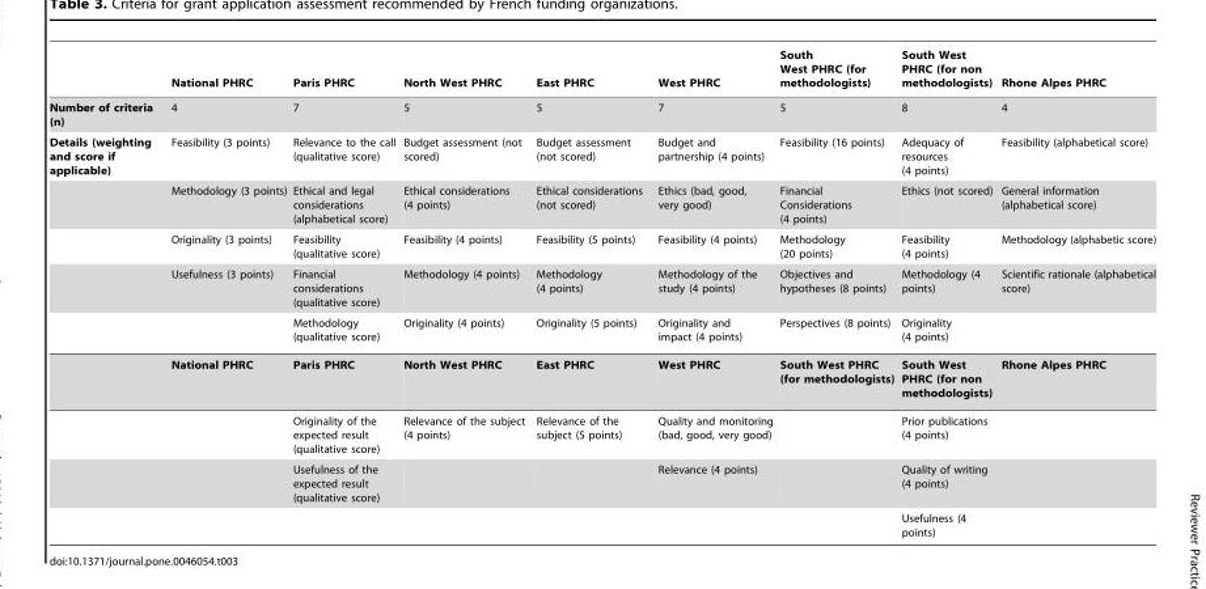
<table><thead><tr><td></td><td>National PHRC</td><td>Paris PHRC</td><td>North West PHRC</td><td>East PHRC</td><td>West PHRC</td><td>South West PHRC (for methodologists)</td><td>South West PHRC (for non methodologists)</td><td>Rhone Alpes PHRC</td></tr></thead><tbody><tr><td>Number of criteria (n)</td><td>4</td><td>7</td><td>5</td><td>5</td><td>7</td><td>5</td><td>8</td><td>4</td></tr><tr><td rowspan="9">Details (weighting and score if applicable)</td><td>Feasibility (3 points)</td><td>Relevance to the call (qualitative score)</td><td>Budget assessment (not scored)</td><td>Budget assessment (not scored)</td><td>Budget and partnership (4 points)</td><td>Feasibility (16 points)</td><td>Adequacy of resources (4 points)</td><td>Feasibility (alphabetical score)</td></tr><tr><td>Methodology (3 points)</td><td>Ethical and legal considerations (alphabetical score)</td><td>Ethical considerations (4 points)</td><td>Ethical considerations (not scored)</td><td>Ethics (bad, good, very good)</td><td>Financial Considerations (4 points)</td><td>Ethics (not scored)</td><td>General information (alphabetical score)</td></tr><tr><td>Originality (3 points)</td><td>Feasibility (qualitative score)</td><td>Feasibility (4 points)</td><td>Feasibility (5 points)</td><td>Feasibility (4 points)</td><td>Methodology (20 points)</td><td>Feasibility (4 points)</td><td>Methodology (alphabetic score)</td></tr><tr><td>Usefulness (3 points)</td><td>Financial considerations (qualitative score)</td><td>Methodology (4 points)</td><td>Methodology (4 points)</td><td>Methodology of the study (4 points)</td><td>Objectives and hypotheses (8 points)</td><td>Methodology (4 points)</td><td>Scientific rationale (alphabetical score)</td></tr><tr><td></td><td>Methodology (qualitative score)</td><td>Originality (4 points)</td><td>Originality (5 points)</td><td>Originality and impact (4 points)</td><td>Perspectives (8 points)</td><td>Originality (4 points)</td><td></td></tr><tr><td>National PHRC</td><td>Paris PHRC</td><td>North West PHRC</td><td>East PHRC</td><td>West PHRC</td><td>South West PHRC (for methodologists)</td><td>South West PHRC (for non methodologists)</td><td>Rhone Alpes PHRC</td></tr><tr><td></td><td>Originality of the expected result (qualitative score)</td><td>Relevance of the subject (4 points)</td><td>Relevance of the subject (5 points)</td><td>Quality and monitoring (bad, good, very good)</td><td></td><td>Prior publications (4 points)</td><td></td></tr><tr><td></td><td>Usefulness of the expected result (qualitative score)</td><td></td><td></td><td>Relevance (4 points)</td><td></td><td>Quality of writing (4 points)</td><td></td></tr><tr><td></td><td></td><td></td><td></td><td></td><td></td><td>Usefulness (4 points)</td><td></td></tr></tbody></table>